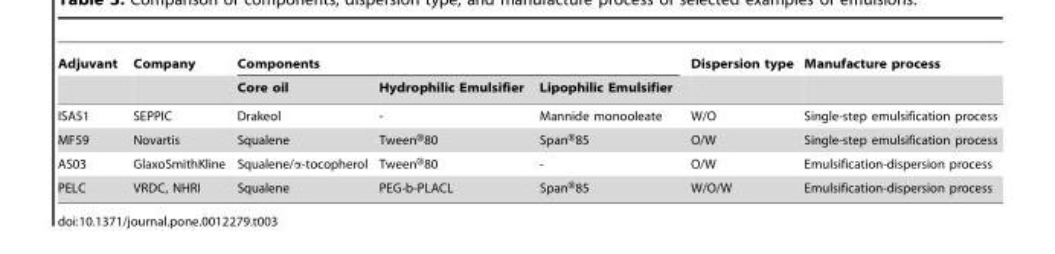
<table><thead><tr><td rowspan="2">Adjuvant</td><td rowspan="2">Company</td><td colspan="3">Components</td><td rowspan="2">Dispersion type</td><td rowspan="2">Manufacture process</td></tr><tr><td>Core oil</td><td>Hydrophilic Emulsifier</td><td>Lipophilic Emulsifier</td></tr></thead><tbody><tr><td>ISA51</td><td>SEPPIC</td><td>Drakeol</td><td>-</td><td>Mannide monooleate</td><td>W/O</td><td>Single-step emulsification process</td></tr><tr><td>MF59</td><td>Novartis</td><td>Squalene</td><td>Tween®80</td><td>Span®85</td><td>O/W</td><td>Single-step emulsification process</td></tr><tr><td>AS03</td><td>GlaxoSmithKline</td><td>Squalene/α-tocopherol</td><td>Tween®80</td><td>-</td><td>O/W</td><td>Emulsification-dispersion process</td></tr><tr><td>PELC</td><td>VRDC, NHRI</td><td>Squalene</td><td>PEG-b-PLACL</td><td>Span®85</td><td>W/O/W</td><td>Emulsification-dispersion process</td></tr></tbody></table>